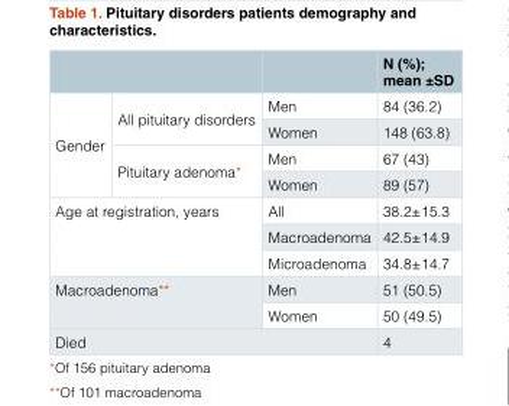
<table><thead><tr><td></td><td></td><td></td><td>N (%); mean ±SD</td></tr></thead><tbody><tr><td rowspan="4">Gender</td><td rowspan="2">All pituitary disorders</td><td>Men</td><td>84 (36.2)</td></tr><tr><td>Women</td><td>148 (63.8)</td></tr><tr><td rowspan="2">Pituitary adenoma*</td><td>Men</td><td>67 (43)</td></tr><tr><td>Women</td><td>89 (57)</td></tr><tr><td rowspan="3" colspan="2">Age at registration, years</td><td>All</td><td>38.2±15.3</td></tr><tr><td>Macroadenoma</td><td>42.5±14.9</td></tr><tr><td>Microadenoma</td><td>34.8±14.7</td></tr><tr><td rowspan="2" colspan="2">Macroadenoma**</td><td>Men</td><td>51 (50.5)</td></tr><tr><td>Women</td><td>50 (49.5)</td></tr><tr><td colspan="3">Died</td><td>4</td></tr></tbody></table>